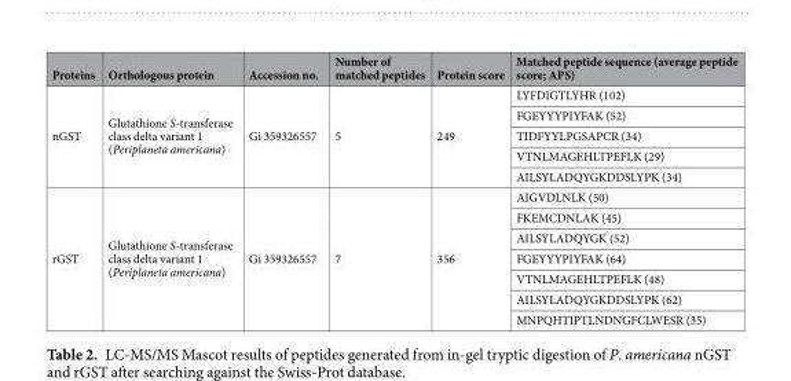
<table><thead><tr><td>Proteins</td><td>Orthologous protein</td><td>Accession no.</td><td>Number of matched peptides</td><td>Protein score</td><td>Matched peptide sequence (average peptide score; APS)</td></tr></thead><tbody><tr><td rowspan="5">nGST</td><td rowspan="5">Glutathione S-transferase class delta variant 1 (Periplaneta americana)</td><td rowspan="5">Gi 359326557</td><td rowspan="5">5</td><td rowspan="5">249</td><td>LYFDIGTLYHR (102)</td></tr><tr><td>FGEYYYPIYFAK (52)</td></tr><tr><td>TIDFYYLPGSAPCR (34)</td></tr><tr><td>VTNLMAGEHLTPEFLK (29)</td></tr><tr><td>AILSYLADQYGKDDSLYPK (34)</td></tr><tr><td rowspan="7">rGST</td><td rowspan="7">Glutathione S-transferase class delta variant 1 (Periplaneta americana)</td><td rowspan="7">Gi 359326557</td><td rowspan="7">7</td><td rowspan="7">356</td><td>AIGVDLNLK (50)</td></tr><tr><td>FKEMCDNLAK (45)</td></tr><tr><td>AILSYLADQYGK (52)</td></tr><tr><td>FGEYYYPIYFAK (64)</td></tr><tr><td>VTNLMAGEHLTPEFLK (48)</td></tr><tr><td>AILSYLADQYGKDDSLYPK (62)</td></tr><tr><td>MNPQHTIPTLNDNGFCLWESR (35)</td></tr></tbody></table>